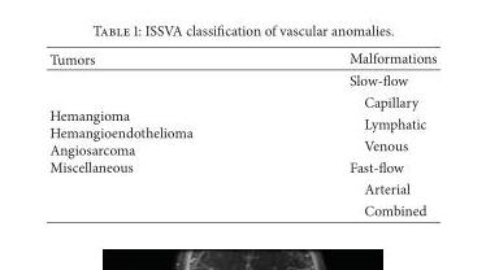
<table><thead><tr><td>Tumors</td><td>Malformations</td></tr></thead><tbody><tr><td rowspan="7">Hemangioma Hemangioendothelioma Angiosarcoma Miscellaneous</td><td>Slow-flow</td></tr><tr><td>Capillary</td></tr><tr><td>Lymphatic</td></tr><tr><td>Venous</td></tr><tr><td>Fast-flow</td></tr><tr><td>Arterial</td></tr><tr><td>Combined</td></tr></tbody></table>